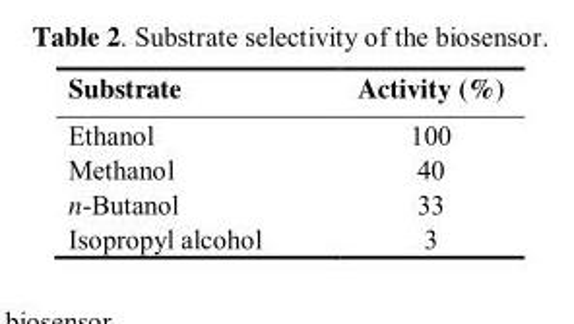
<table><thead><tr><td>Substrate</td><td>Activity (%)</td></tr></thead><tbody><tr><td>Ethanol</td><td>100</td></tr><tr><td>Methanol</td><td>40</td></tr><tr><td>n-Butanol</td><td>33</td></tr><tr><td>Isopropyl alcohol</td><td>3</td></tr></tbody></table>